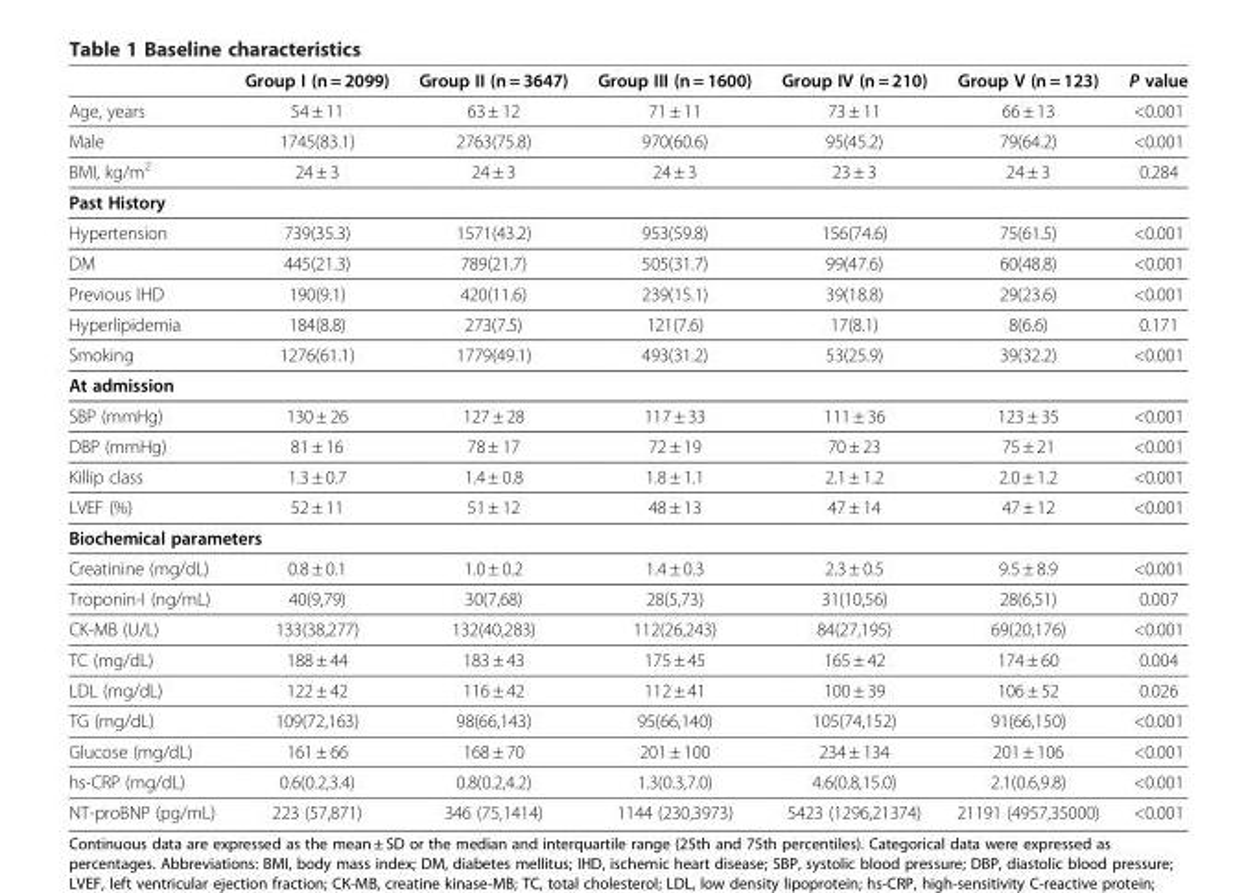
<table><thead><tr><td></td><td>Group I (n = 2099)</td><td>Group II (n = 3647)</td><td>Group III (n = 1600)</td><td>Group IV (n = 210)</td><td>Group V (n = 123)</td><td>P value</td></tr></thead><tbody><tr><td>Age, years</td><td>54 ± 11</td><td>63 ± 12</td><td>71 ± 11</td><td>73 ± 11</td><td>66 ± 13</td><td>&lt;0.001</td></tr><tr><td>Male</td><td>1745(83.1)</td><td>2763(75.8)</td><td>970(60.6)</td><td>95(45.2)</td><td>79(64.2)</td><td>&lt;0.001</td></tr><tr><td>BMI, kg/m<sup>2</sup></td><td>24 ± 3</td><td>24 ± 3</td><td>24 ± 3</td><td>23 ± 3</td><td>24 ± 3</td><td>0.284</td></tr><tr><td colspan="7">Past History</td></tr><tr><td>Hypertension</td><td>739(35.3)</td><td>1571(43.2)</td><td>953(59.8)</td><td>156(74.6)</td><td>75(61.5)</td><td>&lt;0.001</td></tr><tr><td>DM</td><td>445(21.3)</td><td>789(21.7)</td><td>505(31.7)</td><td>99(47.6)</td><td>60(48.8)</td><td>&lt;0.001</td></tr><tr><td>Previous IHD</td><td>190(9.1)</td><td>420(11.6)</td><td>239(15.1)</td><td>39(18.8)</td><td>29(23.6)</td><td>&lt;0.001</td></tr><tr><td>Hyperlipidemia</td><td>184(8.8)</td><td>273(7.5)</td><td>121(7.6)</td><td>17(8.1)</td><td>8(6.6)</td><td>0.171</td></tr><tr><td>Smoking</td><td>1276(61.1)</td><td>1779(49.1)</td><td>493(31.2)</td><td>53(25.9)</td><td>39(32.2)</td><td>&lt;0.001</td></tr><tr><td colspan="7">At admission</td></tr><tr><td>SBP (mmHg)</td><td>130 ± 26</td><td>127 ± 28</td><td>117 ± 33</td><td>111 ± 36</td><td>123 ± 35</td><td>&lt;0.001</td></tr><tr><td>DBP (mmHg)</td><td>81 ± 16</td><td>78 ± 17</td><td>72 ± 19</td><td>70 ± 23</td><td>75 ± 21</td><td>&lt;0.001</td></tr><tr><td>Killip class</td><td>1.3 ± 0.7</td><td>1.4 ± 0.8</td><td>1.8 ± 1.1</td><td>2.1 ± 1.2</td><td>2.0 ± 1.2</td><td>&lt;0.001</td></tr><tr><td>LVEF (%)</td><td>52 ± 11</td><td>51 ± 12</td><td>48 ± 13</td><td>47 ± 14</td><td>47 ± 12</td><td>&lt;0.001</td></tr><tr><td colspan="7">Biochemical parameters</td></tr><tr><td>Creatinine (mg/dL)</td><td>0.8 ± 0.1</td><td>1.0 ± 0.2</td><td>1.4 ± 0.3</td><td>2.3 ± 0.5</td><td>9.5 ± 8.9</td><td>&lt;0.001</td></tr><tr><td>Troponin-I (ng/mL)</td><td>40(9,79)</td><td>30(7,68)</td><td>28(5,73)</td><td>31(10,56)</td><td>28(6,51)</td><td>0.007</td></tr><tr><td>CK-MB (U/L)</td><td>133(38,277)</td><td>132(40,283)</td><td>112(26,243)</td><td>84(27,195)</td><td>69(20,176)</td><td>&lt;0.001</td></tr><tr><td>TC (mg/dL)</td><td>188 ± 44</td><td>183 ± 43</td><td>175 ± 45</td><td>165 ± 42</td><td>174 ± 60</td><td>0.004</td></tr><tr><td>LDL (mg/dL)</td><td>122 ± 42</td><td>116 ± 42</td><td>112 ± 41</td><td>100 ± 39</td><td>106 ± 52</td><td>0.026</td></tr><tr><td>TG (mg/dL)</td><td>109(72,163)</td><td>98(66,143)</td><td>95(66,140)</td><td>105(74,152)</td><td>91(66,150)</td><td>&lt;0.001</td></tr><tr><td>Glucose (mg/dL)</td><td>161 ± 66</td><td>168 ± 70</td><td>201 ± 100</td><td>234 ± 134</td><td>201 ± 106</td><td>&lt;0.001</td></tr><tr><td>hs-CRP (mg/dL)</td><td>0.6(0.2,3.4)</td><td>0.8(0.2,4.2)</td><td>1.3(0.3,7.0)</td><td>4.6(0.8,15.0)</td><td>2.1(0.6,9.8)</td><td>&lt;0.001</td></tr><tr><td>NT-proBNP (pg/mL)</td><td>223 (57,871)</td><td>346 (75,1414)</td><td>1144 (230,3973)</td><td>5423 (1296,21374)</td><td>21191 (4957,35000)</td><td>&lt;0.001</td></tr></tbody></table>